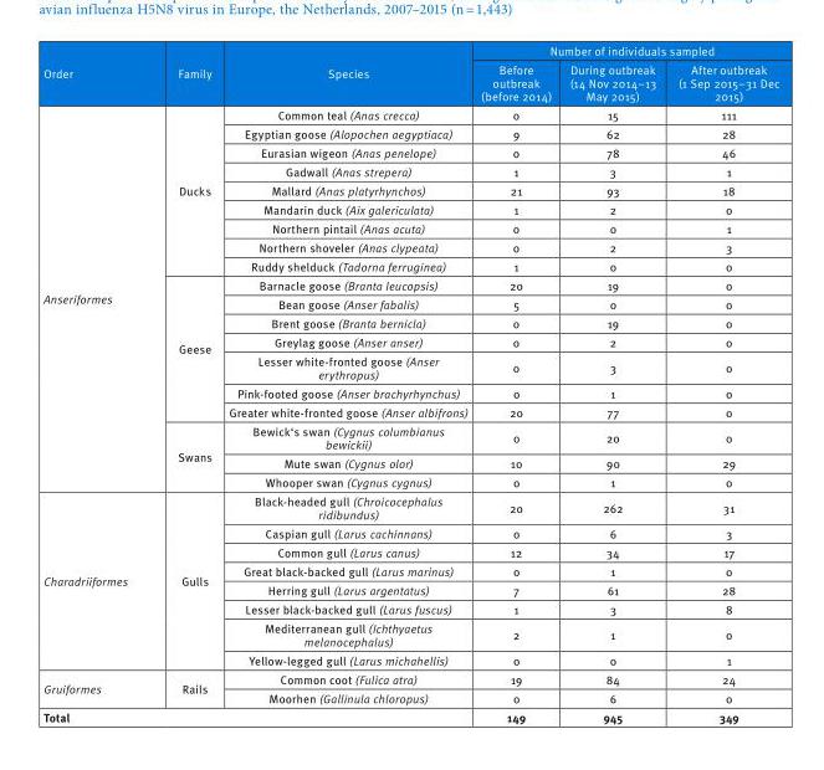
<table><thead><tr><td rowspan="2">Order</td><td rowspan="2">Family</td><td rowspan="2">Species</td><td colspan="3">Number of individuals sampled</td></tr><tr><td>Before outbreak (before 2014)</td><td>During outbreak (14 Nov 2014–13 May 2015)</td><td>After outbreak (1 Sep 2015–31 Dec 2015)</td></tr></thead><tbody><tr><td rowspan="19">Anseriformes</td><td rowspan="9">Ducks</td><td>Common teal (Anas crecca)</td><td>0</td><td>15</td><td>111</td></tr><tr><td>Egyptian goose (Alopochen aegyptiaca)</td><td>9</td><td>62</td><td>28</td></tr><tr><td>Eurasian wigeon (Anas penelope)</td><td>0</td><td>78</td><td>46</td></tr><tr><td>Gadwall (Anas strepera)</td><td>1</td><td>3</td><td>1</td></tr><tr><td>Mallard (Anas platyrhynchos)</td><td>21</td><td>93</td><td>18</td></tr><tr><td>Mandarin duck (Aix galericulata)</td><td>1</td><td>2</td><td>0</td></tr><tr><td>Northern pintail (Anas acuta)</td><td>0</td><td>0</td><td>1</td></tr><tr><td>Northern shoveler (Anas clypeata)</td><td>0</td><td>2</td><td>3</td></tr><tr><td>Ruddy shelduck (Tadorna ferruginea)</td><td>1</td><td>0</td><td>0</td></tr><tr><td rowspan="7">Geese</td><td>Barnacle goose (Branta leucopsis)</td><td>20</td><td>19</td><td>0</td></tr><tr><td>Bean goose (Anser fabalis)</td><td>5</td><td>0</td><td>0</td></tr><tr><td>Brent goose (Branta bernicla)</td><td>0</td><td>19</td><td>0</td></tr><tr><td>Greylag goose (Anser anser)</td><td>0</td><td>2</td><td>0</td></tr><tr><td>Lesser white-fronted goose (Anser erythropus)</td><td>0</td><td>3</td><td>0</td></tr><tr><td>Pink-footed goose (Anser brachyrhynchus)</td><td>0</td><td>1</td><td>0</td></tr><tr><td>Greater white-fronted goose (Anser albifrons)</td><td>20</td><td>77</td><td>0</td></tr><tr><td rowspan="3">Swans</td><td>Bewick‘s swan (Cygnus columbianus bewickii)</td><td>0</td><td>20</td><td>0</td></tr><tr><td>Mute swan (Cygnus olor)</td><td>10</td><td>90</td><td>29</td></tr><tr><td>Whooper swan (Cygnus cygnus)</td><td>0</td><td>1</td><td>0</td></tr><tr><td rowspan="8">Charadriiformes</td><td rowspan="8">Gulls</td><td>Black-headed gull (Chroicocephalus ridibundus)</td><td>20</td><td>262</td><td>31</td></tr><tr><td>Caspian gull (Larus cachinnans)</td><td>0</td><td>6</td><td>3</td></tr><tr><td>Common gull (Larus canus)</td><td>12</td><td>34</td><td>17</td></tr><tr><td>Great black-backed gull (Larus marinus)</td><td>0</td><td>1</td><td>0</td></tr><tr><td>Herring gull (Larus argentatus)</td><td>7</td><td>61</td><td>28</td></tr><tr><td>Lesser black-backed gull (Larus fuscus)</td><td>1</td><td>3</td><td>8</td></tr><tr><td>Mediterranean gull (Ichthyaetus melanocephalus)</td><td>2</td><td>1</td><td>0</td></tr><tr><td>Yellow-legged gull (Larus michahellis)</td><td>0</td><td>0</td><td>1</td></tr><tr><td rowspan="2">Gruiformes</td><td rowspan="2">Rails</td><td>Common coot (Fulica atra)</td><td>19</td><td>84</td><td>24</td></tr><tr><td>Moorhen (Gallinula chloropus)</td><td>0</td><td>6</td><td>0</td></tr><tr><td colspan="3">Total</td><td>149</td><td>945</td><td>349</td></tr></tbody></table>